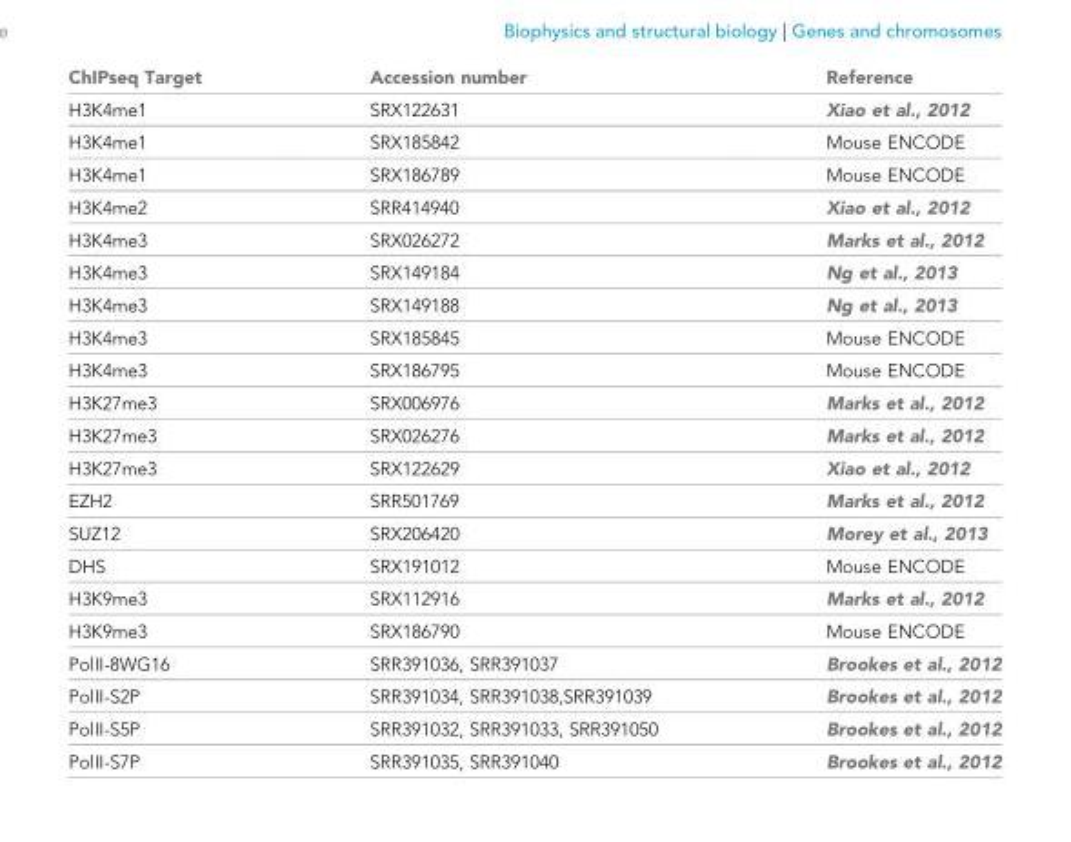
<table><thead><tr><td>ChIPseq Target</td><td>Accession number</td><td>Reference</td></tr></thead><tbody><tr><td>H3K4me1</td><td>SRX122631</td><td>Xiao et al., 2012</td></tr><tr><td>H3K4me1</td><td>SRX185842</td><td>Mouse ENCODE</td></tr><tr><td>H3K4me1</td><td>SRX186789</td><td>Mouse ENCODE</td></tr><tr><td>H3K4me2</td><td>SRR414940</td><td>Xiao et al., 2012</td></tr><tr><td>H3K4me3</td><td>SRX026272</td><td>Marks et al., 2012</td></tr><tr><td>H3K4me3</td><td>SRX149184</td><td>Ng et al., 2013</td></tr><tr><td>H3K4me3</td><td>SRX149188</td><td>Ng et al., 2013</td></tr><tr><td>H3K4me3</td><td>SRX185845</td><td>Mouse ENCODE</td></tr><tr><td>H3K4me3</td><td>SRX186795</td><td>Mouse ENCODE</td></tr><tr><td>H3K27me3</td><td>SRX006976</td><td>Marks et al., 2012</td></tr><tr><td>H3K27me3</td><td>SRX026276</td><td>Marks et al., 2012</td></tr><tr><td>H3K27me3</td><td>SRX122629</td><td>Xiao et al., 2012</td></tr><tr><td>EZH2</td><td>SRR501769</td><td>Marks et al., 2012</td></tr><tr><td>SUZ12</td><td>SRX206420</td><td>Morey et al., 2013</td></tr><tr><td>DHS</td><td>SRX191012</td><td>Mouse ENCODE</td></tr><tr><td>H3K9me3</td><td>SRX112916</td><td>Marks et al., 2012</td></tr><tr><td>H3K9me3</td><td>SRX186790</td><td>Mouse ENCODE</td></tr><tr><td>PolII-8WG16</td><td>SRR391036, SRR391037</td><td>Brookes et al., 2012</td></tr><tr><td>PolII-S2P</td><td>SRR391034, SRR391038,SRR391039</td><td>Brookes et al., 2012</td></tr><tr><td>PolII-S5P</td><td>SRR391032, SRR391033, SRR391050</td><td>Brookes et al., 2012</td></tr><tr><td>PolII-S7P</td><td>SRR391035, SRR391040</td><td>Brookes et al., 2012</td></tr></tbody></table>